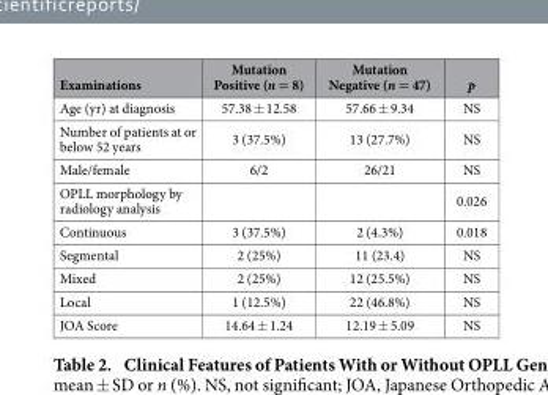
<table><thead><tr><td>Examinations</td><td>Mutation Positive (n = 8)</td><td>Mutation Negative (n = 47)</td><td>p</td></tr></thead><tbody><tr><td>Age (yr) at diagnosis</td><td>57.38 ± 12.58</td><td>57.66 ± 9.34</td><td>NS</td></tr><tr><td>Number of patients at or below 52 years</td><td>3 (37.5%)</td><td>13 (27.7%)</td><td>NS</td></tr><tr><td>Male/female</td><td>6/2</td><td>26/21</td><td>NS</td></tr><tr><td>OPLL morphology by radiology analysis</td><td></td><td></td><td>0.026</td></tr><tr><td>Continuous</td><td>3 (37.5%)</td><td>2 (4.3%)</td><td>0.018</td></tr><tr><td>Segmental</td><td>2 (25%)</td><td>11 (23.4)</td><td>NS</td></tr><tr><td>Mixed</td><td>2 (25%)</td><td>12 (25.5%)</td><td>NS</td></tr><tr><td>Local</td><td>1 (12.5%)</td><td>22 (46.8%)</td><td>NS</td></tr><tr><td>JOA Score</td><td>14.64 ± 1.24</td><td>12.19 ± 5.09</td><td>NS</td></tr></tbody></table>